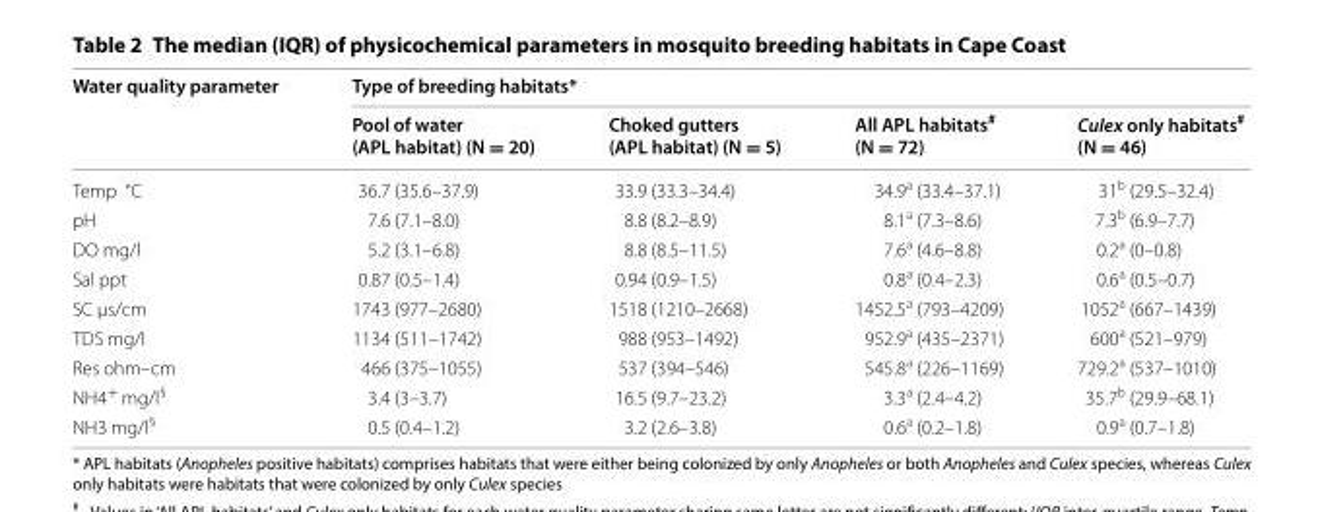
<table><thead><tr><td rowspan="2">Water quality parameter</td><td colspan="4">Type of breeding habitats*</td></tr><tr><td>Pool of water (APL habitat) (N = 20)</td><td>Choked gutters (APL habitat) (N = 5)</td><td>All APL habitats<sup>#</sup> (N = 72)</td><td>Culex only habitats<sup>#</sup> (N = 46)</td></tr></thead><tbody><tr><td>Temp °C</td><td>36.7 (35.6–37.9)</td><td>33.9 (33.3–34.4)</td><td>34.9<sup>a</sup> (33.4–37.1)</td><td>31<sup>b</sup> (29.5–32.4)</td></tr><tr><td>pH</td><td>7.6 (7.1–8.0)</td><td>8.8 (8.2–8.9)</td><td>8.1<sup>a</sup> (7.3–8.6)</td><td>7.3<sup>b</sup> (6.9–7.7)</td></tr><tr><td>DO mg/l</td><td>5.2 (3.1–6.8)</td><td>8.8 (8.5–11.5)</td><td>7.6<sup>a</sup> (4.6–8.8)</td><td>0.2<sup>a</sup> (0–0.8)</td></tr><tr><td>Sal ppt</td><td>0.87 (0.5–1.4)</td><td>0.94 (0.9–1.5)</td><td>0.8<sup>a</sup> (0.4–2.3)</td><td>0.6<sup>a</sup> (0.5–0.7)</td></tr><tr><td>SC µs/cm</td><td>1743 (977–2680)</td><td>1518 (1210–2668)</td><td>1452.5<sup>a</sup> (793–4209)</td><td>1052<sup>a</sup> (667–1439)</td></tr><tr><td>TDS mg/l</td><td>1134 (511–1742)</td><td>988 (953–1492)</td><td>952.9<sup>a</sup> (435–2371)</td><td>600<sup>a</sup> (521–979)</td></tr><tr><td>Res ohm–cm</td><td>466 (375–1055)</td><td>537 (394–546)</td><td>545.8<sup>a</sup> (226–1169)</td><td>729.2<sup>a</sup> (537–1010)</td></tr><tr><td>NH4<sup>+</sup> mg/l<sup>§</sup></td><td>3.4 (3–3.7)</td><td>16.5 (9.7–23.2)</td><td>3.3<sup>a</sup> (2.4–4.2)</td><td>35.7<sup>b</sup> (29.9–68.1)</td></tr><tr><td>NH3 mg/l<sup>§</sup></td><td>0.5 (0.4–1.2)</td><td>3.2 (2.6–3.8)</td><td>0.6<sup>a</sup> (0.2–1.8)</td><td>0.9<sup>a</sup> (0.7–1.8)</td></tr></tbody></table>